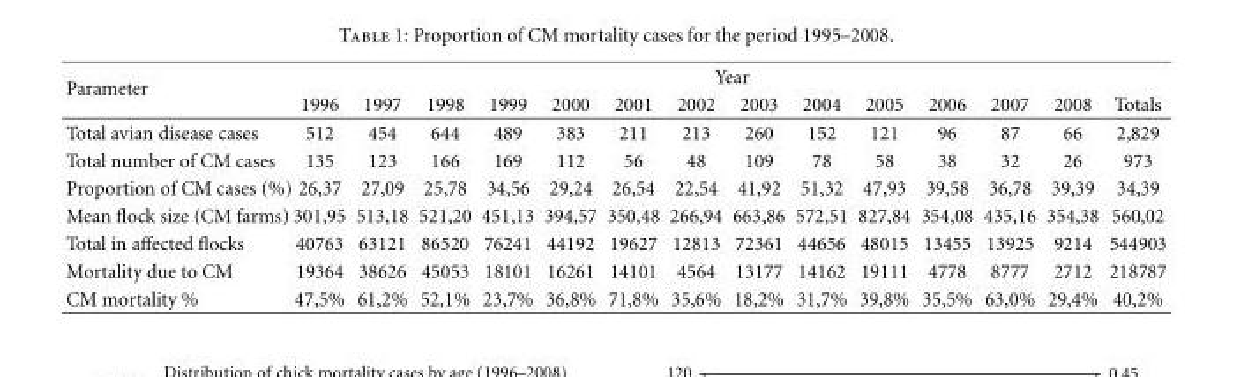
<table><thead><tr><td rowspan="2">Parameter</td><td colspan="14">Year</td></tr><tr><td>1996</td><td>1997</td><td>1998</td><td>1999</td><td>2000</td><td>2001</td><td>2002</td><td>2003</td><td>2004</td><td>2005</td><td>2006</td><td>2007</td><td>2008</td><td>Totals</td></tr></thead><tbody><tr><td>Total avian disease cases</td><td>512</td><td>454</td><td>644</td><td>489</td><td>383</td><td>211</td><td>213</td><td>260</td><td>152</td><td>121</td><td>96</td><td>87</td><td>66</td><td>2,829</td></tr><tr><td>Total number of CM cases</td><td>135</td><td>123</td><td>166</td><td>169</td><td>112</td><td>56</td><td>48</td><td>109</td><td>78</td><td>58</td><td>38</td><td>32</td><td>26</td><td>973</td></tr><tr><td>Proportion of CM cases (%)</td><td>26,37</td><td>27,09</td><td>25,78</td><td>34,56</td><td>29,24</td><td>26,54</td><td>22,54</td><td>41,92</td><td>51,32</td><td>47,93</td><td>39,58</td><td>36,78</td><td>39,39</td><td>34,39</td></tr><tr><td>Mean flock size (CM farms)</td><td>301,95</td><td>513,18</td><td>521,20</td><td>451,13</td><td>394,57</td><td>350,48</td><td>266,94</td><td>663,86</td><td>572,51</td><td>827,84</td><td>354,08</td><td>435,16</td><td>354,38</td><td>560,02</td></tr><tr><td>Total in affected flocks</td><td>40763</td><td>63121</td><td>86520</td><td>76241</td><td>44192</td><td>19627</td><td>12813</td><td>72361</td><td>44656</td><td>48015</td><td>13455</td><td>13925</td><td>9214</td><td>544903</td></tr><tr><td>Mortality due to CM</td><td>19364</td><td>38626</td><td>45053</td><td>18101</td><td>16261</td><td>14101</td><td>4564</td><td>13177</td><td>14162</td><td>19111</td><td>4778</td><td>8777</td><td>2712</td><td>218787</td></tr><tr><td>CM mortality %</td><td>47,5%</td><td>61,2%</td><td>52,1%</td><td>23,7%</td><td>36,8%</td><td>71,8%</td><td>35,6%</td><td>18,2%</td><td>31,7%</td><td>39,8%</td><td>35,5%</td><td>63,0%</td><td>29,4%</td><td>40,2%</td></tr></tbody></table>